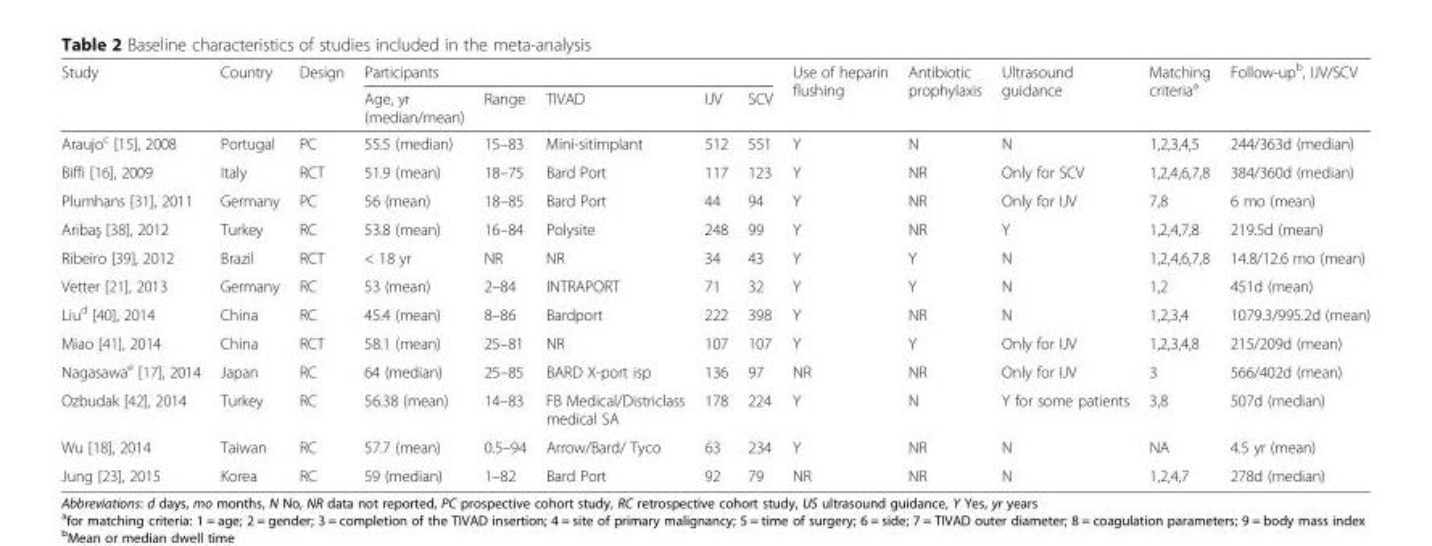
<table><thead><tr><td rowspan="2">Study</td><td rowspan="2">Country</td><td rowspan="2">Design</td><td colspan="5">Participants</td><td rowspan="2">Use of heparin flushing</td><td rowspan="2">Antibiotic prophylaxis</td><td rowspan="2">Ultrasound guidance</td><td rowspan="2">Matching criteria<sup>a</sup></td><td rowspan="2">Follow-up<sup>b</sup>, IJV/SCV</td></tr><tr><td>Age, yr (median/mean)</td><td>Range</td><td>TIVAD</td><td>IJV</td><td>SCV</td></tr></thead><tbody><tr><td>Araujo<sup>c</sup> [15], 2008</td><td>Portugal</td><td>PC</td><td>55.5 (median)</td><td>15–83</td><td>Mini-sitimplant</td><td>512</td><td>551</td><td>Y</td><td>N</td><td>N</td><td>1,2,3,4,5</td><td>244/363d (median)</td></tr><tr><td>Biffi [16], 2009</td><td>Italy</td><td>RCT</td><td>51.9 (mean)</td><td>18–75</td><td>Bard Port</td><td>117</td><td>123</td><td>Y</td><td>NR</td><td>Only for SCV</td><td>1,2,4,6,7,8</td><td>384/360d (median)</td></tr><tr><td>Plumhans [31], 2011</td><td>Germany</td><td>PC</td><td>56 (mean)</td><td>18–85</td><td>Bard Port</td><td>44</td><td>94</td><td>Y</td><td>NR</td><td>Only for IJV</td><td>7,8</td><td>6 mo (mean)</td></tr><tr><td>Aribaş [38], 2012</td><td>Turkey</td><td>RC</td><td>53.8 (mean)</td><td>16–84</td><td>Polysite</td><td>248</td><td>99</td><td>Y</td><td>NR</td><td>Y</td><td>1,2,4,7,8</td><td>219.5d (mean)</td></tr><tr><td>Ribeiro [39], 2012</td><td>Brazil</td><td>RCT</td><td>&lt; 18 yr</td><td>NR</td><td>NR</td><td>34</td><td>43</td><td>Y</td><td>Y</td><td>N</td><td>1,2,4,6,7,8</td><td>14.8/12.6 mo (mean)</td></tr><tr><td>Vetter [21], 2013</td><td>Germany</td><td>RC</td><td>53 (mean)</td><td>2–84</td><td>INTRAPORT</td><td>71</td><td>32</td><td>Y</td><td>Y</td><td>N</td><td>1,2</td><td>451d (mean)</td></tr><tr><td>Liu<sup>d</sup> [40], 2014</td><td>China</td><td>RC</td><td>45.4 (mean)</td><td>8–86</td><td>Bardport</td><td>222</td><td>398</td><td>Y</td><td>NR</td><td>N</td><td>1,2,3,4</td><td>1079.3/995.2d (mean)</td></tr><tr><td>Miao [41], 2014</td><td>China</td><td>RCT</td><td>58.1 (mean)</td><td>25–81</td><td>NR</td><td>107</td><td>107</td><td>Y</td><td>Y</td><td>Only for IJV</td><td>1,2,3,4,8</td><td>215/209d (mean)</td></tr><tr><td>Nagasawa<sup>e</sup> [17], 2014</td><td>Japan</td><td>RC</td><td>64 (median)</td><td>25–85</td><td>BARD X-port isp</td><td>136</td><td>97</td><td>NR</td><td>NR</td><td>Only for IJV</td><td>3</td><td>566/402d (mean)</td></tr><tr><td>Ozbudak [42], 2014</td><td>Turkey</td><td>RC</td><td>56.38 (mean)</td><td>14–83</td><td>FB Medical/Districlass medical SA</td><td>178</td><td>224</td><td>Y</td><td>N</td><td>Y for some patients</td><td>3,8</td><td>507d (median)</td></tr><tr><td>Wu [18], 2014</td><td>Taiwan</td><td>RC</td><td>57.7 (mean)</td><td>0.5–94</td><td>Arrow/Bard/ Tyco</td><td>63</td><td>234</td><td>Y</td><td>NR</td><td>N</td><td>NA</td><td>4.5 yr (mean)</td></tr><tr><td>Jung [23], 2015</td><td>Korea</td><td>RC</td><td>59 (median)</td><td>1–82</td><td>Bard Port</td><td>92</td><td>79</td><td>NR</td><td>NR</td><td>N</td><td>1,2,4,7</td><td>278d (median)</td></tr></tbody></table>